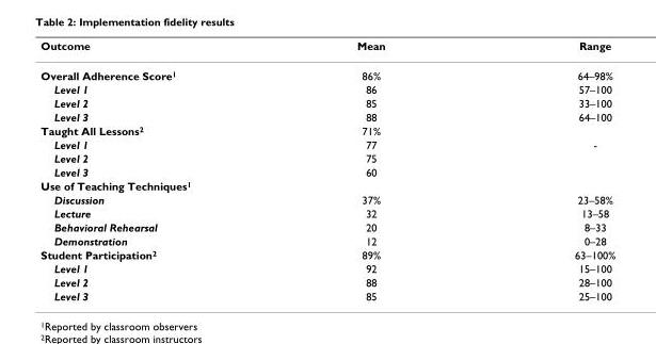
<table><thead><tr><td>Outcome</td><td>Mean</td><td>Range</td></tr></thead><tbody><tr><td>Overall Adherence Score<sup>1</sup></td><td>86%</td><td>64–98%</td></tr><tr><td>Level 1</td><td>86</td><td>57–100</td></tr><tr><td>Level 2</td><td>85</td><td>33–100</td></tr><tr><td>Level 3</td><td>88</td><td>64–100</td></tr><tr><td>Taught All Lessons<sup>2</sup></td><td>71%</td><td></td></tr><tr><td>Level 1</td><td>77</td><td>-</td></tr><tr><td>Level 2</td><td>75</td><td></td></tr><tr><td>Level 3</td><td>60</td><td></td></tr><tr><td colspan="3">Use of Teaching Techniques<sup>1</sup></td></tr><tr><td>Discussion</td><td>37%</td><td>23–58%</td></tr><tr><td>Lecture</td><td>32</td><td>13–58</td></tr><tr><td>Behavioral Rehearsal</td><td>20</td><td>8–33</td></tr><tr><td>Demonstration</td><td>12</td><td>0–28</td></tr><tr><td>Student Participation<sup>2</sup></td><td>89%</td><td>63–100%</td></tr><tr><td>Level 1</td><td>92</td><td>15–100</td></tr><tr><td>Level 2</td><td>88</td><td>28–100</td></tr><tr><td>Level 3</td><td>85</td><td>25–100</td></tr></tbody></table>